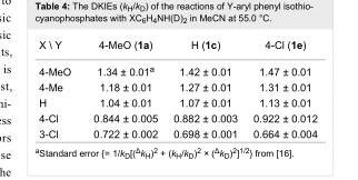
<table><tbody><tr><td>X \ Y</td><td>4-MeO (1a)</td><td>H (1c)</td><td>4-Cl (1e)</td></tr><tr><td>4-MeO</td><td>1.34 ± 0.01<sup>a</sup></td><td>1.42 ± 0.01</td><td>1.47 ± 0.01</td></tr><tr><td>4-Me</td><td>1.18 ± 0.01</td><td>1.27 ± 0.01</td><td>1.31 ± 0.01</td></tr><tr><td>H</td><td>1.04 ± 0.01</td><td>1.07 ± 0.01</td><td>1.13 ± 0.01</td></tr><tr><td>4-Cl</td><td>0.844 ± 0.005</td><td>0.882 ± 0.003</td><td>0.922 ± 0.012</td></tr><tr><td>3-Cl</td><td>0.722 ± 0.002</td><td>0.698 ± 0.001</td><td>0.664 ± 0.004</td></tr></tbody></table>